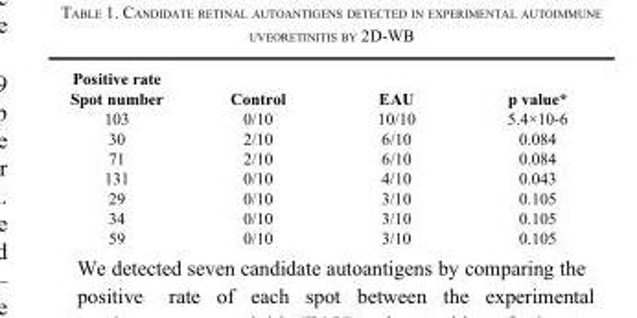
<table><tbody><tr><td colspan="4">Positive rate</td></tr><tr><td>Spot number</td><td>Control</td><td>EAU</td><td>p value*</td></tr><tr><td>103</td><td>0/10</td><td>10/10</td><td>5.4×10-6</td></tr><tr><td>30</td><td>2/10</td><td>6/10</td><td>0.084</td></tr><tr><td>71</td><td>2/10</td><td>6/10</td><td>0.084</td></tr><tr><td>131</td><td>0/10</td><td>4/10</td><td>0.043</td></tr><tr><td>29</td><td>0/10</td><td>3/10</td><td>0.105</td></tr><tr><td>34</td><td>0/10</td><td>3/10</td><td>0.105</td></tr><tr><td>59</td><td>0/10</td><td>3/10</td><td>0.105</td></tr></tbody></table>